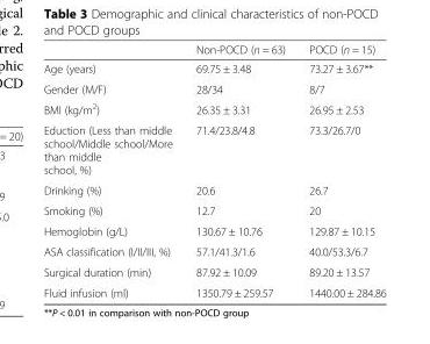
<table><thead><tr><td></td><td>Non-POCD (n = 63)</td><td>POCD (n = 15)</td></tr></thead><tbody><tr><td>Age (years)</td><td>69.75 ± 3.48</td><td>73.27 ± 3.67**</td></tr><tr><td>Gender (M/F)</td><td>28/34</td><td>8/7</td></tr><tr><td>BMI (kg/m<sup>2</sup>)</td><td>26.35 ± 3.31</td><td>26.95 ± 2.53</td></tr><tr><td>Eduction (Less than middle school/Middle school/More than middle school, %)</td><td>71.4/23.8/4.8</td><td>73.3/26.7/0</td></tr><tr><td>Drinking (%)</td><td>20.6</td><td>26.7</td></tr><tr><td>Smoking (%)</td><td>12.7</td><td>20</td></tr><tr><td>Hemoglobin (g/L)</td><td>130.67 ± 10.76</td><td>129.87 ± 10.15</td></tr><tr><td>ASA classification (I/II/III, %)</td><td>57.1/41.3/1.6</td><td>40.0/53.3/6.7</td></tr><tr><td>Surgical duration (min)</td><td>87.92 ± 10.09</td><td>89.20 ± 13.57</td></tr><tr><td>Fluid infusion (ml)</td><td>1350.79 ± 259.57</td><td>1440.00 ± 284.86</td></tr></tbody></table>